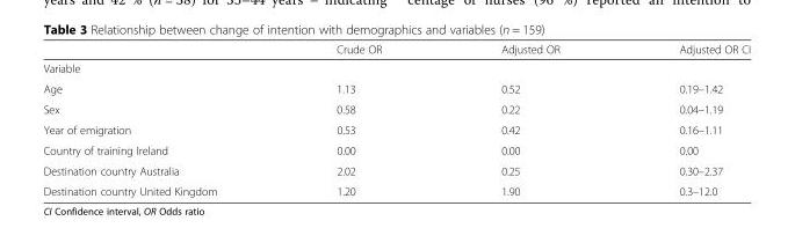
<table><thead><tr><td></td><td>Crude OR</td><td>Adjusted OR</td><td>Adjusted OR CI</td></tr></thead><tbody><tr><td colspan="4">Variable</td></tr><tr><td>Age</td><td>1.13</td><td>0.52</td><td>0.19–1.42</td></tr><tr><td>Sex</td><td>0.58</td><td>0.22</td><td>0.04–1.19</td></tr><tr><td>Year of emigration</td><td>0.53</td><td>0.42</td><td>0.16–1.11</td></tr><tr><td>Country of training Ireland</td><td>0.00</td><td>0.00</td><td>0.00</td></tr><tr><td>Destination country Australia</td><td>2.02</td><td>0.25</td><td>0.30–2.37</td></tr><tr><td>Destination country United Kingdom</td><td>1.20</td><td>1.90</td><td>0.3–12.0</td></tr></tbody></table>